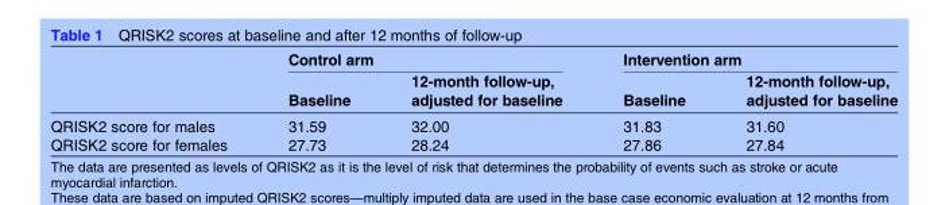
<table><thead><tr><td rowspan="2"></td><td colspan="2">Control arm</td><td colspan="2">Intervention arm</td></tr><tr><td>Baseline</td><td>12-month follow-up, adjusted for baseline</td><td>Baseline</td><td>12-month follow-up, adjusted for baseline</td></tr></thead><tbody><tr><td>QRISK2 score for males</td><td>31.59</td><td>32.00</td><td>31.83</td><td>31.60</td></tr><tr><td>QRISK2 score for females</td><td>27.73</td><td>28.24</td><td>27.86</td><td>27.84</td></tr></tbody></table>